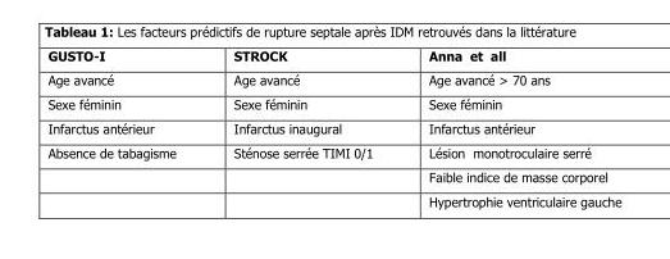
<table><thead><tr><td>GUSTO-I</td><td>STROCK</td><td>Anna et all</td></tr></thead><tbody><tr><td>Age avancé</td><td>Age avancé</td><td>Age avancé &gt; 70 ans</td></tr><tr><td>Sexe féminin</td><td>Sexe féminin</td><td>Sexe féminin</td></tr><tr><td>Infarctus antérieur</td><td>Infarctus inaugural</td><td>Infarctus antérieur</td></tr><tr><td rowspan="3">Absence de tabagisme</td><td>Sténose serrée TIMI 0/1</td><td>Lésion monotroculaire serré</td></tr><tr><td></td><td>Faible indice de masse corporel</td></tr><tr><td></td><td>Hypertrophie ventriculaire gauche</td></tr></tbody></table>